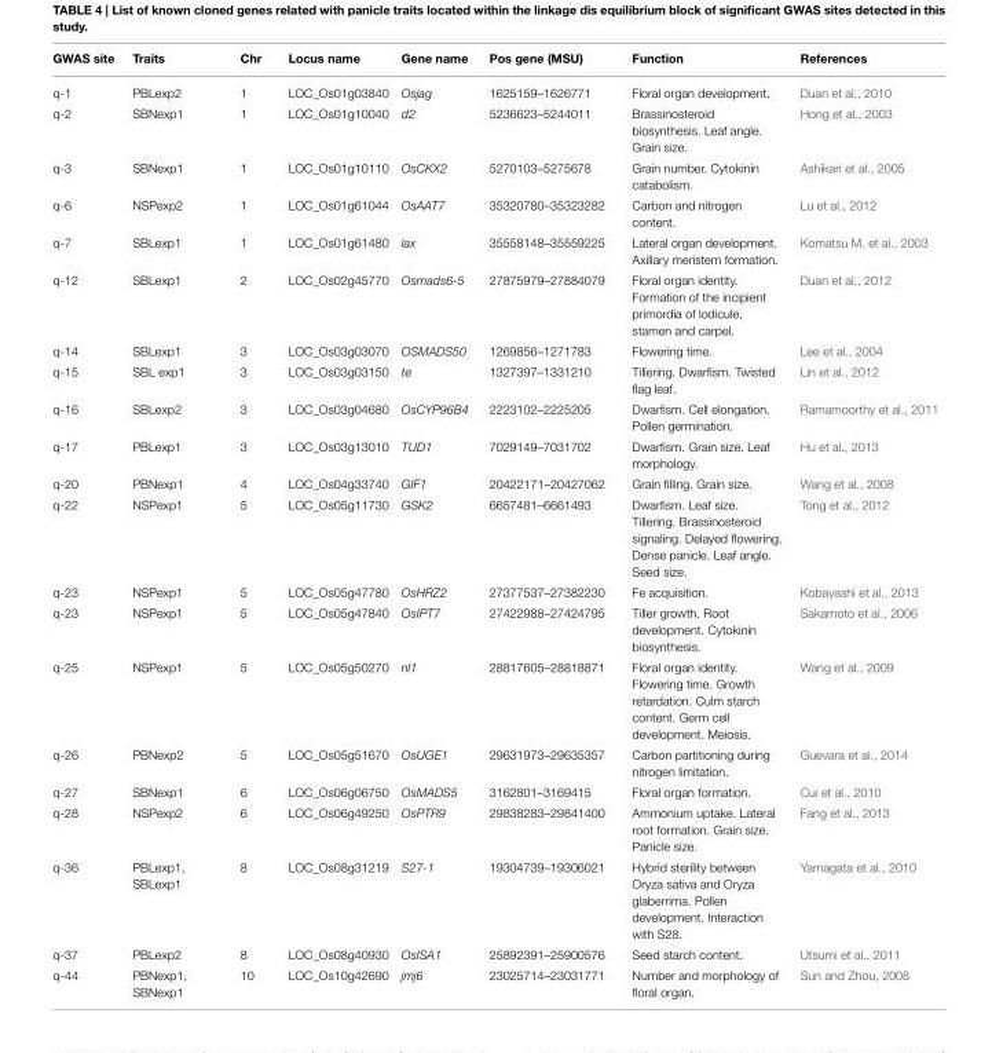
<table><thead><tr><td>GWAS site</td><td>Traits</td><td>Chr</td><td>Locus name</td><td>Gene name</td><td>Pos gene (MSU)</td><td>Function</td><td>References</td></tr></thead><tbody><tr><td>q-1</td><td>PBLexp2</td><td>1</td><td>LOC_Os01g03840</td><td>Osjag</td><td>1625159–1626771</td><td>Floral organ development.</td><td>Duan et al., 2010</td></tr><tr><td>q-2</td><td>SBNexp1</td><td>1</td><td>LOC_Os01g10040</td><td>d2</td><td>5236623–5244011</td><td>Brassinosteroid biosynthesis. Leaf angle. Grain size.</td><td>Hong et al., 2003</td></tr><tr><td>q-3</td><td>SBNexp1</td><td>1</td><td>LOC_Os01g10110</td><td>OsCKX2</td><td>5270103–5275678</td><td>Grain number. Cytokinin catabolism.</td><td>Ashikari et al., 2005</td></tr><tr><td>q-6</td><td>NSPexp2</td><td>1</td><td>LOC_Os01g61044</td><td>OsAAT7</td><td>35320780–35323282</td><td>Carbon and nitrogen content.</td><td>Lu et al., 2012</td></tr><tr><td>q-7</td><td>SBLexp1</td><td>1</td><td>LOC_Os01g61480</td><td>lax</td><td>35558148–35559225</td><td>Lateral organ development. Axillary meristem formation.</td><td>Komatsu M. et al., 2003</td></tr><tr><td>q-12</td><td>SBLexp1</td><td>2</td><td>LOC_Os02g45770</td><td>Osmads6-5</td><td>27875979–27884079</td><td>Floral organ identity. Formation of the incipient primordia of lodicule, stamen and carpel.</td><td>Duan et al., 2012</td></tr><tr><td>q-14</td><td>SBLexp1</td><td>3</td><td>LOC_Os03g03070</td><td>OSMADS50</td><td>1269856–1271783</td><td>Flowering time.</td><td>Lee et al., 2004</td></tr><tr><td>q-15</td><td>SBL exp1</td><td>3</td><td>LOC_Os03g03150</td><td>te</td><td>1327397–1331210</td><td>Tillering. Dwarfism. Twisted flag leaf.</td><td>Lin et al., 2012</td></tr><tr><td>q-16</td><td>SBLexp2</td><td>3</td><td>LOC_Os03g04680</td><td>OsCYP96B4</td><td>2223102–2225205</td><td>Dwarfism. Cell elongation. Pollen germination.</td><td>Ramamoorthy et al., 2011</td></tr><tr><td>q-17</td><td>PBLexp1</td><td>3</td><td>LOC_Os03g13010</td><td>TUD1</td><td>7029149–7031702</td><td>Dwarfism. Grain size. Leaf morphology.</td><td>Hu et al., 2013</td></tr><tr><td>q-20</td><td>PBNexp1</td><td>4</td><td>LOC_Os04g33740</td><td>GIF1</td><td>20422171–20427062</td><td>Grain filling. Grain size.</td><td>Wang et al., 2008</td></tr><tr><td>q-22</td><td>NSPexp1</td><td>5</td><td>LOC_Os05g11730</td><td>GSK2</td><td>6657481–6661493</td><td>Dwarfism. Leaf size. Tillering. Brassinosteroid signaling. Delayed flowering. Dense panicle. Leaf angle. Seed size.</td><td>Tong et al., 2012</td></tr><tr><td>q-23</td><td>NSPexp1</td><td>5</td><td>LOC_Os05g47780</td><td>OsHRZ2</td><td>27377537–27382230</td><td>Fe acquisition.</td><td>Kobayashi et al., 2013</td></tr><tr><td>q-23</td><td>NSPexp1</td><td>5</td><td>LOC_Os05g47840</td><td>OsIPT7</td><td>27422988–27424795</td><td>Tiller growth. Root development. Cytokinin biosynthesis.</td><td>Sakamoto et al., 2006</td></tr><tr><td>q-25</td><td>NSPexp1</td><td>5</td><td>LOC_Os05g50270</td><td>nl1</td><td>28817605–28818871</td><td>Floral organ identity. Flowering time. Growth retardation. Culm starch content. Germ cell development. Meiosis.</td><td>Wang et al., 2009</td></tr><tr><td>q-26</td><td>PBNexp2</td><td>5</td><td>LOC_Os05g51670</td><td>OsUGE1</td><td>29631973–29635357</td><td>Carbon partitioning during nitrogen limitation.</td><td>Guevara et al., 2014</td></tr><tr><td>q-27</td><td>SBNexp1</td><td>6</td><td>LOC_Os06g06750</td><td>OsMADS5</td><td>3162801–3169415</td><td>Floral organ formation.</td><td>Cui et al., 2010</td></tr><tr><td>q-28</td><td>NSPexp2</td><td>6</td><td>LOC_Os06g49250</td><td>OsPTR9</td><td>29838283–29841400</td><td>Ammonium uptake. Lateral root formation. Grain size. Panicle size.</td><td>Fang et al., 2013</td></tr><tr><td>q-36</td><td>PBLexp1, SBLexp1</td><td>8</td><td>LOC_Os08g31219</td><td>S27-1</td><td>19304739–19306021</td><td>Hybrid sterility between Oryza sativa and Oryza glaberrima. Pollen development. Interaction with S28.</td><td>Yamagata et al., 2010</td></tr><tr><td>q-37</td><td>PBLexp2</td><td>8</td><td>LOC_Os08g40930</td><td>OsISA1</td><td>25892391–25900576</td><td>Seed starch content.</td><td>Utsumi et al., 2011</td></tr><tr><td>q-44</td><td>PBNexp1, SBNexp1</td><td>10</td><td>LOC_Os10g42690</td><td>jmj6</td><td>23025714–23031771</td><td>Number and morphology of floral organ.</td><td>Sun and Zhou, 2008</td></tr></tbody></table>